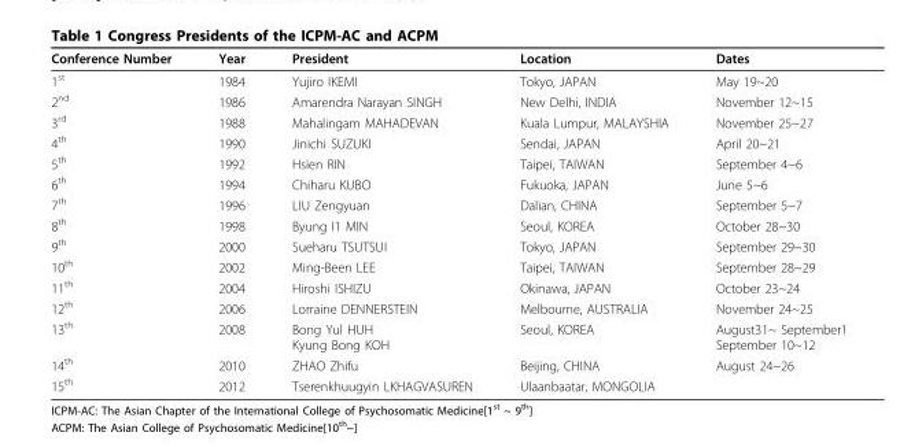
<table><thead><tr><td>Conference Number</td><td>Year</td><td>President</td><td>Location</td><td>Dates</td></tr></thead><tbody><tr><td>1<sup>st</sup></td><td>1984</td><td>Yujiro IKEMI</td><td>Tokyo, JAPAN</td><td>May 19~20</td></tr><tr><td>2<sup>nd</sup></td><td>1986</td><td>Amarendra Narayan SINGH</td><td>New Delhi, INDIA</td><td>November 12~15</td></tr><tr><td>3<sup>rd</sup></td><td>1988</td><td>Mahalingam MAHADEVAN</td><td>Kuala Lumpur, MALAYSHIA</td><td>November 25~27</td></tr><tr><td>4<sup>th</sup></td><td>1990</td><td>Jinichi SUZUKI</td><td>Sendai, JAPAN</td><td>April 20~21</td></tr><tr><td>5<sup>th</sup></td><td>1992</td><td>Hsien RIN</td><td>Taipei, TAIWAN</td><td>September 4~6</td></tr><tr><td>6<sup>th</sup></td><td>1994</td><td>Chiharu KUBO</td><td>Fukuoka, JAPAN</td><td>June 5~6</td></tr><tr><td>7<sup>th</sup></td><td>1996</td><td>LIU Zengyuan</td><td>Dalian, CHINA</td><td>September 5~7</td></tr><tr><td>8<sup>th</sup></td><td>1998</td><td>Byung I1 MIN</td><td>Seoul, KOREA</td><td>October 28~30</td></tr><tr><td>9<sup>th</sup></td><td>2000</td><td>Sueharu TSUTSUI</td><td>Tokyo, JAPAN</td><td>September 29~30</td></tr><tr><td>10<sup>th</sup></td><td>2002</td><td>Ming-Been LEE</td><td>Taipei, TAIWAN</td><td>September 28~29</td></tr><tr><td>11<sup>th</sup></td><td>2004</td><td>Hiroshi ISHIZU</td><td>Okinawa, JAPAN</td><td>October 23~24</td></tr><tr><td>12<sup>th</sup></td><td>2006</td><td>Lorraine DENNERSTEIN</td><td>Melbourne, AUSTRALIA</td><td>November 24~25</td></tr><tr><td>13<sup>th</sup></td><td>2008</td><td>Bong Yul HUH Kyung Bong KOH</td><td>Seoul, KOREA</td><td>August31~ September1 September 10~12</td></tr><tr><td>14<sup>th</sup></td><td>2010</td><td>ZHAO Zhifu</td><td>Beijing, CHINA</td><td>August 24~26</td></tr><tr><td>15<sup>th</sup></td><td>2012</td><td>Tserenkhuugyin LKHAGVASUREN</td><td>Ulaanbaatar, MONGOLIA</td><td></td></tr></tbody></table>